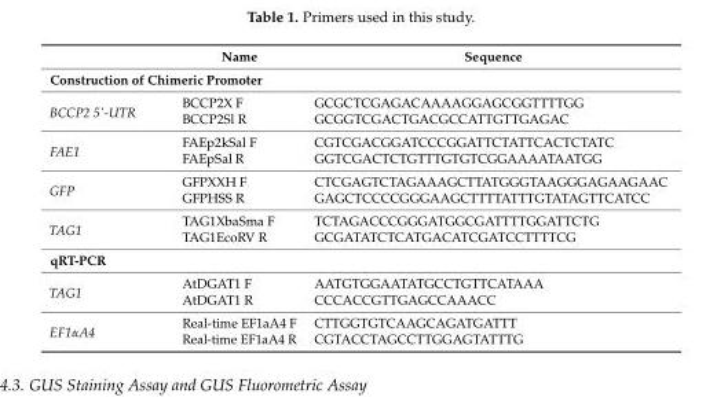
<table><thead><tr><td></td><td>Name</td><td>Sequence</td></tr></thead><tbody><tr><td colspan="3">Construction of Chimeric Promoter</td></tr><tr><td rowspan="2">BCCP2 5&#x27;-UTR</td><td>BCCP2X F</td><td>GCGCTCGAGACAAAAGGAGCGGTTTTGG</td></tr><tr><td>BCCP2Sl R</td><td>GCGGTCGACTGACGCCATTGTTGAGAC</td></tr><tr><td rowspan="2">FAE1</td><td>FAEp2kSal F</td><td>CGTCGACGGATCCCGGATTCTATTCACTCTATC</td></tr><tr><td>FAEpSal R</td><td>GGTCGACTCTGTTTGTGTCGGAAAATAATGG</td></tr><tr><td rowspan="2">GFP</td><td>GFPXXH F</td><td>CTCGAGTCTAGAAAGCTTATGGGTAAGGGAGAAGAAC</td></tr><tr><td>GFPHSS R</td><td>GAGCTCCCCGGGAAGCTTTTATTTGTATAGTTCATCC</td></tr><tr><td rowspan="2">TAG1</td><td>TAG1XbaSma F</td><td>TCTAGACCCGGGATGGCGATTTTGGATTCTG</td></tr><tr><td>TAG1EcoRV R</td><td>GCGATATCTCATGACATCGATCCTTTTCG</td></tr><tr><td colspan="3">qRT-PCR</td></tr><tr><td rowspan="2">TAG1</td><td>AtDGAT1 F</td><td>AATGTGGAATATGCCTGTTCATAAA</td></tr><tr><td>AtDGAT1 R</td><td>CCCACCGTTGAGCCAAACC</td></tr><tr><td rowspan="2">EF1αA4</td><td>Real-time EF1aA4 F</td><td>CTTGGTGTCAAGCAGATGATTT</td></tr><tr><td>Real-time EF1aA4 R</td><td>CGTACCTAGCCTTGGAGTATTTG</td></tr></tbody></table>